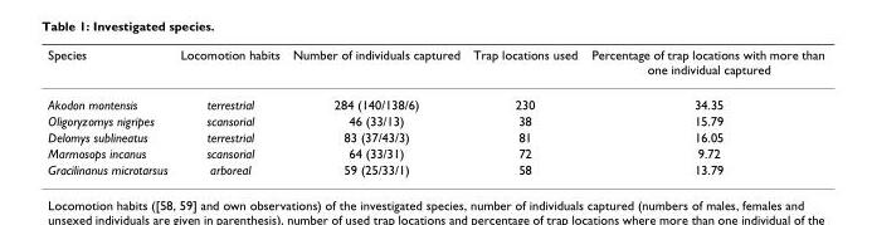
<table><thead><tr><td>Species</td><td>Locomotion habits</td><td>Number of individuals captured</td><td>Trap locations used</td><td>Percentage of trap locations with more than one individual captured</td></tr></thead><tbody><tr><td>Akodon montensis</td><td>terrestrial</td><td>284 (140/138/6)</td><td>230</td><td>34.35</td></tr><tr><td>Oligoryzomys nigripes</td><td>scansorial</td><td>46 (33/13)</td><td>38</td><td>15.79</td></tr><tr><td>Delomys sublineatus</td><td>terrestrial</td><td>83 (37/43/3)</td><td>81</td><td>16.05</td></tr><tr><td>Marmosops incanus</td><td>scansorial</td><td>64 (33/31)</td><td>72</td><td>9.72</td></tr><tr><td>Gracilinanus microtarsus</td><td>arboreal</td><td>59 (25/33/1)</td><td>58</td><td>13.79</td></tr></tbody></table>